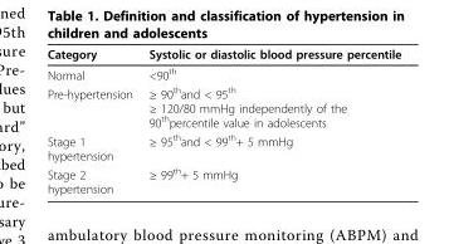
<table><thead><tr><td>Category</td><td>Systolic or diastolic blood pressure percentile</td></tr></thead><tbody><tr><td>Normal</td><td>&lt;90<sup>th</sup></td></tr><tr><td>Pre-hypertension</td><td>≥ 90<sup>th</sup>and &lt; 95<sup>th</sup> ≥ 120/80 mmHg independently of the 90<sup>th</sup>percentile value in adolescents</td></tr><tr><td>Stage 1 hypertension</td><td>≥ 95<sup>th</sup>and &lt; 99<sup>th</sup>+ 5 mmHg</td></tr><tr><td>Stage 2 hypertension</td><td>≥ 99<sup>th</sup>+ 5 mmHg</td></tr></tbody></table>